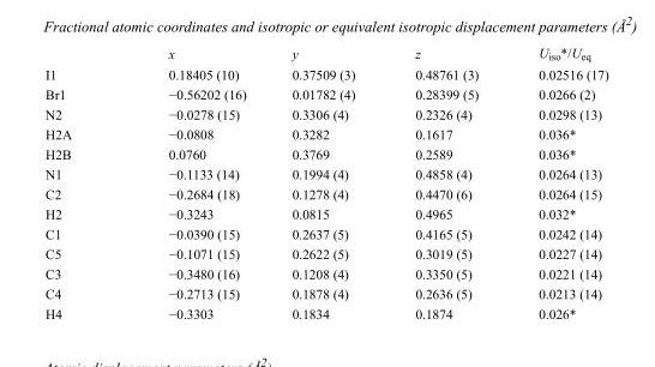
<table><thead><tr><td></td><td>x</td><td>y</td><td>z</td><td>U<sub>iso</sub>*/U<sub>eq</sub></td></tr></thead><tbody><tr><td>I1</td><td>0.18405 (10)</td><td>0.37509 (3)</td><td>0.48761 (3)</td><td>0.02516 (17)</td></tr><tr><td>Br1</td><td>−0.56202 (16)</td><td>0.01782 (4)</td><td>0.28399 (5)</td><td>0.0266 (2)</td></tr><tr><td>N2</td><td>−0.0278 (15)</td><td>0.3306 (4)</td><td>0.2326 (4)</td><td>0.0298 (13)</td></tr><tr><td>H2A</td><td>−0.0808</td><td>0.3282</td><td>0.1617</td><td>0.036*</td></tr><tr><td>H2B</td><td>0.0760</td><td>0.3769</td><td>0.2589</td><td>0.036*</td></tr><tr><td>N1</td><td>−0.1133 (14)</td><td>0.1994 (4)</td><td>0.4858 (4)</td><td>0.0264 (13)</td></tr><tr><td>C2</td><td>−0.2684 (18)</td><td>0.1278 (4)</td><td>0.4470 (6)</td><td>0.0264 (15)</td></tr><tr><td>H2</td><td>−0.3243</td><td>0.0815</td><td>0.4965</td><td>0.032*</td></tr><tr><td>C1</td><td>−0.0390 (15)</td><td>0.2637 (5)</td><td>0.4165 (5)</td><td>0.0242 (14)</td></tr><tr><td>C5</td><td>−0.1071 (15)</td><td>0.2622 (5)</td><td>0.3019 (5)</td><td>0.0227 (14)</td></tr><tr><td>C3</td><td>−0.3480 (16)</td><td>0.1208 (4)</td><td>0.3350 (5)</td><td>0.0221 (14)</td></tr><tr><td>C4</td><td>−0.2713 (15)</td><td>0.1878 (4)</td><td>0.2636 (5)</td><td>0.0213 (14)</td></tr><tr><td>H4</td><td>−0.3303</td><td>0.1834</td><td>0.1874</td><td>0.026*</td></tr></tbody></table>